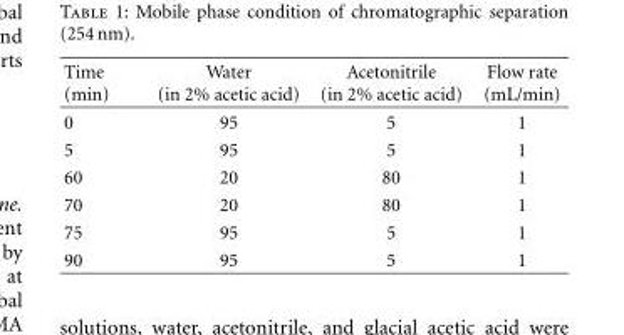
<table><thead><tr><td>Time (min)</td><td>Water (in 2% acetic acid)</td><td>Acetonitrile (in 2% acetic acid)</td><td>Flow rate (mL/min)</td></tr></thead><tbody><tr><td>0</td><td>95</td><td>5</td><td>1</td></tr><tr><td>5</td><td>95</td><td>5</td><td>1</td></tr><tr><td>60</td><td>20</td><td>80</td><td>1</td></tr><tr><td>70</td><td>20</td><td>80</td><td>1</td></tr><tr><td>75</td><td>95</td><td>5</td><td>1</td></tr><tr><td>90</td><td>95</td><td>5</td><td>1</td></tr></tbody></table>